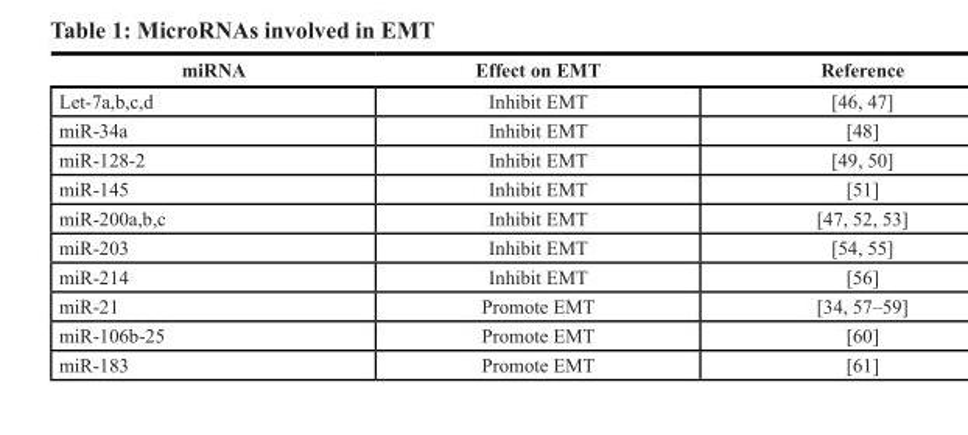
<table><thead><tr><td>miRNA</td><td>Effect on EMT</td><td>Reference</td></tr></thead><tbody><tr><td>Let-7a,b,c,d</td><td>Inhibit EMT</td><td>[46, 47]</td></tr><tr><td>miR-34a</td><td>Inhibit EMT</td><td>[48]</td></tr><tr><td>miR-128-2</td><td>Inhibit EMT</td><td>[49, 50]</td></tr><tr><td>miR-145</td><td>Inhibit EMT</td><td>[51]</td></tr><tr><td>miR-200a,b,c</td><td>Inhibit EMT</td><td>[47, 52, 53]</td></tr><tr><td>miR-203</td><td>Inhibit EMT</td><td>[54, 55]</td></tr><tr><td>miR-214</td><td>Inhibit EMT</td><td>[56]</td></tr><tr><td>miR-21</td><td>Promote EMT</td><td>[34, 57–59]</td></tr><tr><td>miR-106b-25</td><td>Promote EMT</td><td>[60]</td></tr><tr><td>miR-183</td><td>Promote EMT</td><td>[61]</td></tr></tbody></table>